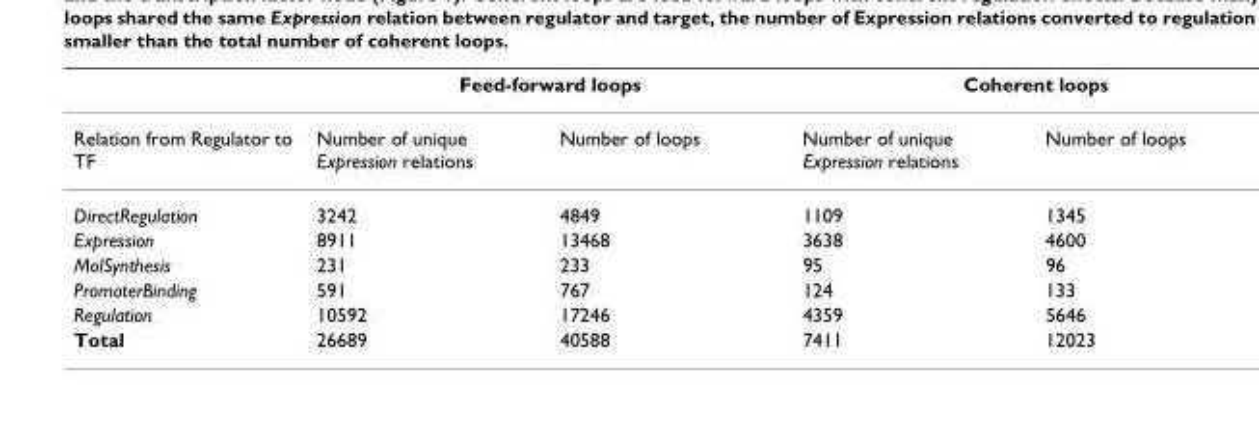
<table><thead><tr><td rowspan="2">Relation from Regulator to TF</td><td colspan="2">Feed-forward loops</td><td colspan="2">Coherent loops</td></tr><tr><td>Number of unique Expression relations</td><td>Number of loops</td><td>Number of unique Expression relations</td><td>Number of loops</td></tr></thead><tbody><tr><td>DirectRegulation</td><td>3242</td><td>4849</td><td>1109</td><td>1345</td></tr><tr><td>Expression</td><td>8911</td><td>13468</td><td>3638</td><td>4600</td></tr><tr><td>MolSynthesis</td><td>231</td><td>233</td><td>95</td><td>96</td></tr><tr><td>PromoterBinding</td><td>591</td><td>767</td><td>124</td><td>133</td></tr><tr><td>Regulation</td><td>10592</td><td>17246</td><td>4359</td><td>5646</td></tr><tr><td>Total</td><td>26689</td><td>40588</td><td>7411</td><td>12023</td></tr></tbody></table>